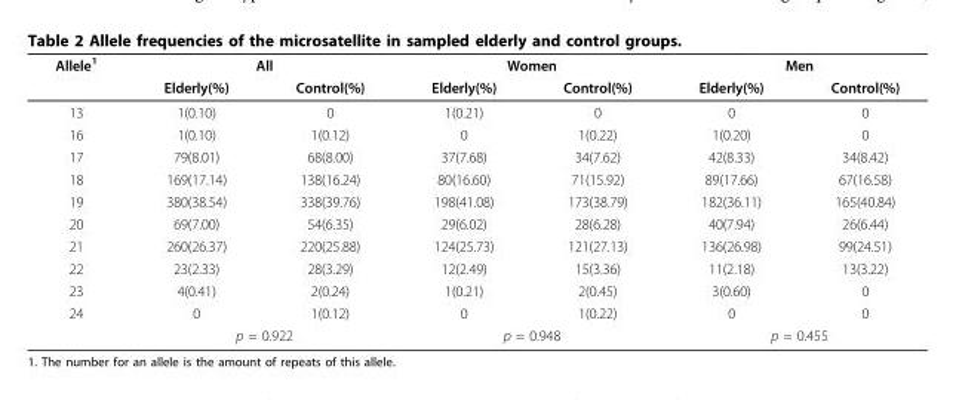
<table><thead><tr><td rowspan="2">Allele<sup>1</sup></td><td colspan="2">All</td><td colspan="2">Women</td><td colspan="2">Men</td></tr><tr><td>Elderly(%)</td><td>Control(%)</td><td>Elderly(%)</td><td>Control(%)</td><td>Elderly(%)</td><td>Control(%)</td></tr></thead><tbody><tr><td>13</td><td>1(0.10)</td><td>0</td><td>1(0.21)</td><td>0</td><td>0</td><td>0</td></tr><tr><td>16</td><td>1(0.10)</td><td>1(0.12)</td><td>0</td><td>1(0.22)</td><td>1(0.20)</td><td>0</td></tr><tr><td>17</td><td>79(8.01)</td><td>68(8.00)</td><td>37(7.68)</td><td>34(7.62)</td><td>42(8.33)</td><td>34(8.42)</td></tr><tr><td>18</td><td>169(17.14)</td><td>138(16.24)</td><td>80(16.60)</td><td>71(15.92)</td><td>89(17.66)</td><td>67(16.58)</td></tr><tr><td>19</td><td>380(38.54)</td><td>338(39.76)</td><td>198(41.08)</td><td>173(38.79)</td><td>182(36.11)</td><td>165(40.84)</td></tr><tr><td>20</td><td>69(7.00)</td><td>54(6.35)</td><td>29(6.02)</td><td>28(6.28)</td><td>40(7.94)</td><td>26(6.44)</td></tr><tr><td>21</td><td>260(26.37)</td><td>220(25.88)</td><td>124(25.73)</td><td>121(27.13)</td><td>136(26.98)</td><td>99(24.51)</td></tr><tr><td>22</td><td>23(2.33)</td><td>28(3.29)</td><td>12(2.49)</td><td>15(3.36)</td><td>11(2.18)</td><td>13(3.22)</td></tr><tr><td>23</td><td>4(0.41)</td><td>2(0.24)</td><td>1(0.21)</td><td>2(0.45)</td><td>3(0.60)</td><td>0</td></tr><tr><td rowspan="2">24</td><td>0</td><td>1(0.12)</td><td>0</td><td>1(0.22)</td><td>0</td><td>0</td></tr><tr><td colspan="2">p = 0.922</td><td colspan="2">p = 0.948</td><td colspan="2">p = 0.455</td></tr></tbody></table>